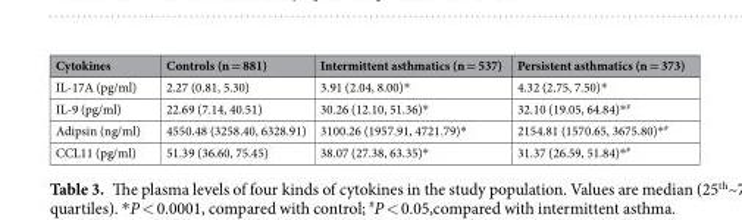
<table><thead><tr><td>Cytokines</td><td>Controls (n = 881)</td><td>Intermittent asthmatics (n = 537)</td><td>Persistent asthmatics (n = 373)</td></tr></thead><tbody><tr><td>IL-17A (pg/ml)</td><td>2.27 (0.81, 5.30)</td><td>3.91 (2.04, 8.00)*</td><td>4.32 (2.75, 7.50)*</td></tr><tr><td>IL-9 (pg/ml)</td><td>22.69 (7.14, 40.51)</td><td>30.26 (12.10, 51.36)*</td><td>32.10 (19.05, 64.84)*<sup>#</sup></td></tr><tr><td>Adipsin (ng/ml)</td><td>4550.48 (3258.40, 6328.91)</td><td>3100.26 (1957.91, 4721.79)*</td><td>2154.81 (1570.65, 3675.80)*<sup>#</sup></td></tr><tr><td>CCL11 (pg/ml)</td><td>51.39 (36.60, 75.45)</td><td>38.07 (27.38, 63.35)*</td><td>31.37 (26.59, 51.84)*<sup>#</sup></td></tr></tbody></table>